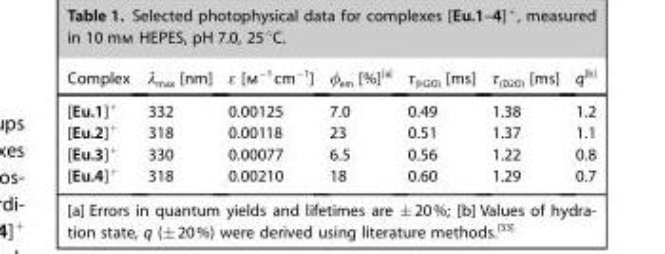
<table><thead><tr><td>Complex</td><td>λ<sub>max</sub> [nm]</td><td>ϵ [m<sup>−1</sup>cm<sup>−1</sup>]</td><td>φ<sub>em</sub> [%]<sup>[a]</sup></td><td>τ<sub>(H2O)</sub> [ms]</td><td>τ<sub>(D2O)</sub> [ms]</td><td>q<sup>[b]</sup></td></tr></thead><tbody><tr><td>[Eu.1]<sup>+</sup></td><td>332</td><td>0.00125</td><td>7.0</td><td>0.49</td><td>1.38</td><td>1.2</td></tr><tr><td>[Eu.2]<sup>+</sup></td><td>318</td><td>0.00118</td><td>23</td><td>0.51</td><td>1.37</td><td>1.1</td></tr><tr><td>[Eu.3]<sup>+</sup></td><td>330</td><td>0.00077</td><td>6.5</td><td>0.56</td><td>1.22</td><td>0.8</td></tr><tr><td>[Eu.4]<sup>+</sup></td><td>318</td><td>0.00210</td><td>18</td><td>0.60</td><td>1.29</td><td>0.7</td></tr></tbody></table>